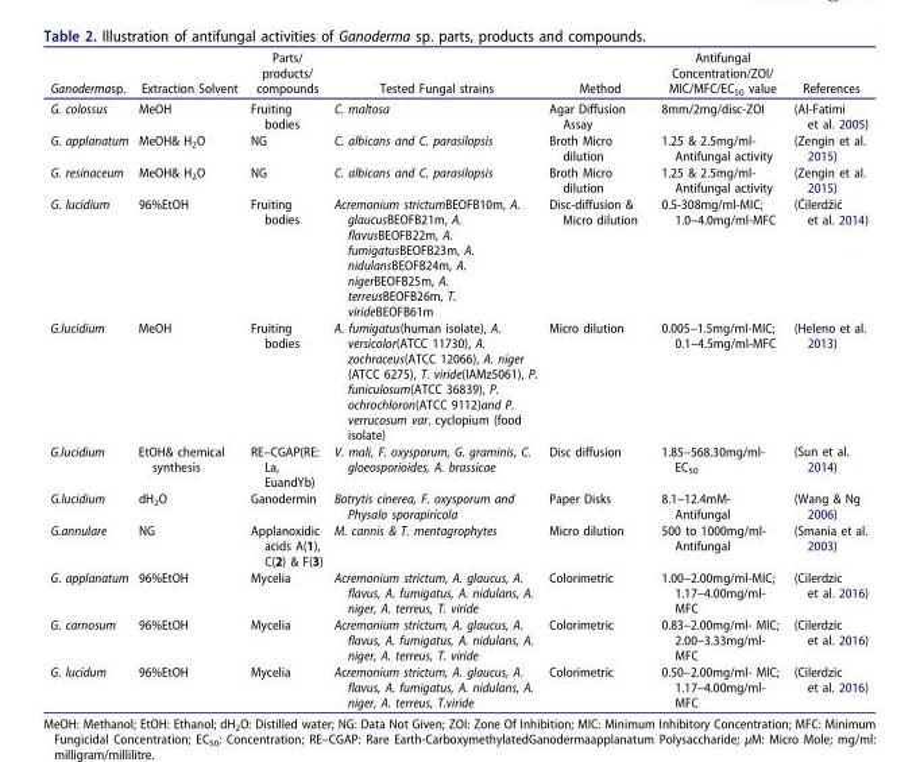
<table><thead><tr><td>Ganodermasp.</td><td>Extraction Solvent</td><td>Parts/ products/ compounds</td><td>Tested Fungal strains</td><td>Method</td><td>Antifungal Concentration/ZOI/ MIC/MFC/EC<sub>50</sub> value</td><td>References</td></tr></thead><tbody><tr><td>G. colossus</td><td>MeOH</td><td>Fruiting bodies</td><td>C. maltosa</td><td>Agar Diffusion Assay</td><td>8mm/2mg/disc-ZOI</td><td>(Al-Fatimi et al. 2005)</td></tr><tr><td>G. applanatum</td><td>MeOH&amp; H<sub>2</sub>O</td><td>NG</td><td>C. albicans and C. parasilopsis</td><td>Broth Micro dilution</td><td>1.25 &amp; 2.5mg/ml- Antifungal activity</td><td>(Zengin et al. 2015)</td></tr><tr><td>G. resinaceum</td><td>MeOH&amp; H<sub>2</sub>O</td><td>NG</td><td>C. albicans and C. parasilopsis</td><td>Broth Micro dilution</td><td>1.25 &amp; 2.5mg/ml- Antifungal activity</td><td>(Zengin et al. 2015)</td></tr><tr><td>G. lucidium</td><td>96%EtOH</td><td>Fruiting bodies</td><td>Acremonium strictumBEOFB10m, A. glaucusBEOFB21m, A. flavusBEOFB22m, A. fumigatusBEOFB23m, A. nidulansBEOFB24m, A. nigerBEOFB25m, A. terreusBEOFB26m, T. virideBEOFB61m</td><td>Disc-diffusion &amp; Micro dilution</td><td>0.5-308mg/ml-MIC; 1.0–4.0mg/ml-MFC</td><td>(Ćilerdžić et al. 2014)</td></tr><tr><td>G.lucidium</td><td>MeOH</td><td>Fruiting bodies</td><td>A. fumigatus(human isolate), A. versicolor(ATCC 11730), A. zochraceus(ATCC 12066), A. niger (ATCC 6275), T. viride(IAMz5061), P. funiculosum(ATCC 36839), P. ochrochloron(ATCC 9112)and P. verrucosum var. cyclopium (food isolate)</td><td>Micro dilution</td><td>0.005–1.5mg/ml-MIC; 0.1–4.5mg/ml-MFC</td><td>(Heleno et al. 2013)</td></tr><tr><td>G.lucidium</td><td>EtOH&amp; chemical synthesis</td><td>RE–CGAP(RE: La, EuandYb)</td><td>V. mali, F. oxysporum, G. graminis, C. gloeosporioides, A. brassicae</td><td>Disc diffusion</td><td>1.85–568.30mg/ml- EC<sub>50</sub></td><td>(Sun et al. 2014)</td></tr><tr><td>G.lucidium</td><td>dH<sub>2</sub>O</td><td>Ganodermin</td><td>Botrytis cinerea, F. oxysporum and Physalo sporapiricola</td><td>Paper Disks</td><td>8.1–12.4mM- Antifungal</td><td>(Wang &amp; Ng 2006)</td></tr><tr><td>G.annulare</td><td>NG</td><td>Applanoxidic acids A(1), C(2) &amp; F(3)</td><td>M. cannis &amp; T. mentagrophytes</td><td>Micro dilution</td><td>500 to 1000mg/ml- Antifungal</td><td>(Smania et al. 2003)</td></tr><tr><td>G. applanatum</td><td>96%EtOH</td><td>Mycelia</td><td>Acremonium strictum, A. glaucus, A. flavus, A. fumigatus, A. nidulans, A. niger, A. terreus, T. viride</td><td>Colorimetric</td><td>1.00–2.00mg/ml-MIC; 1.17–4.00mg/ml- MFC</td><td>(Cilerdzic et al. 2016)</td></tr><tr><td>G. carnosum</td><td>96%EtOH</td><td>Mycelia</td><td>Acremonium strictum, A. glaucus, A. flavus, A. fumigatus, A. nidulans, A. niger, A. terreus, T. viride</td><td>Colorimetric</td><td>0.83–2.00mg/ml- MIC; 2.00–3.33mg/ml- MFC</td><td>(Cilerdzic et al. 2016)</td></tr><tr><td>G. lucidum</td><td>96%EtOH</td><td>Mycelia</td><td>Acremonium strictum, A. glaucus, A. flavus, A. fumigatus, A. nidulans, A. niger, A. terreus, T.viride</td><td>Colorimetric</td><td>0.50–2.00mg/ml- MIC; 1.17–4.00mg/ml- MFC</td><td>(Cilerdzic et al. 2016)</td></tr></tbody></table>